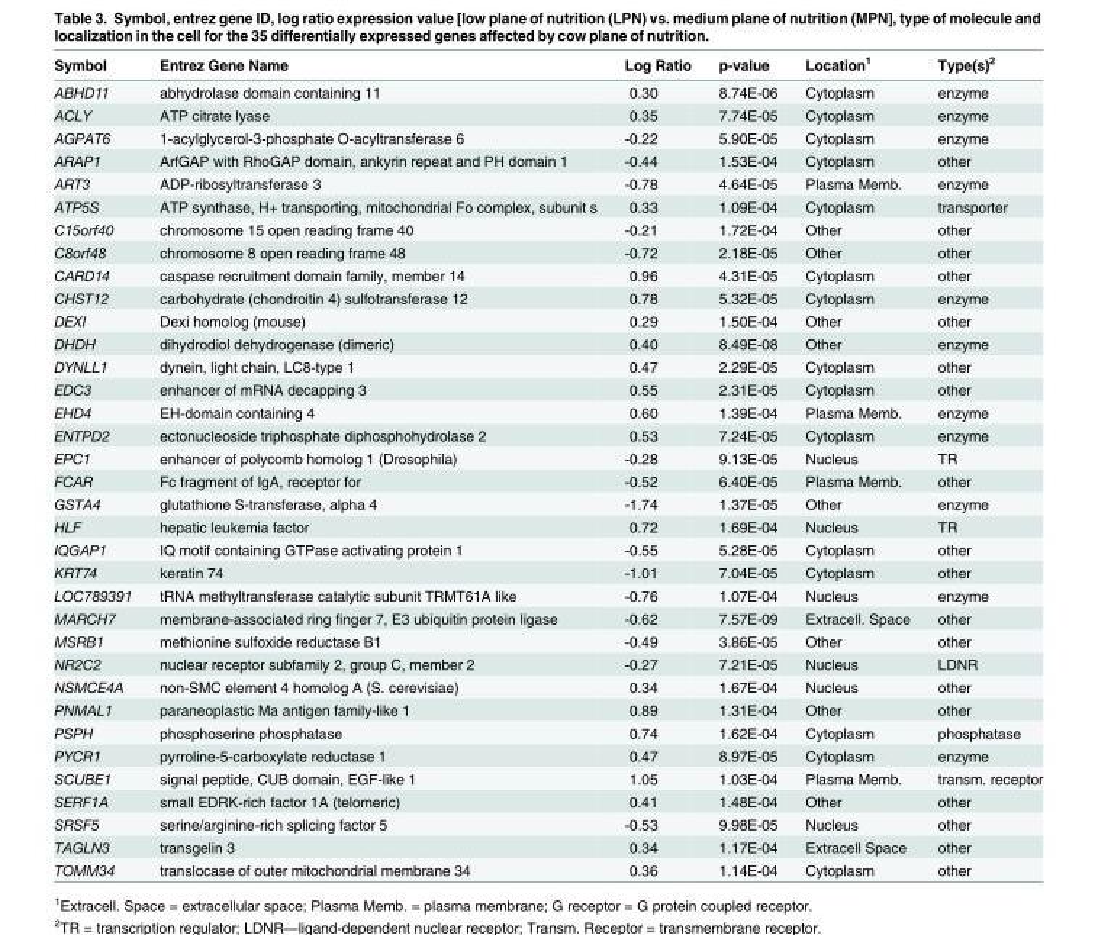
<table><thead><tr><td>Symbol</td><td>Entrez Gene Name</td><td>Log Ratio</td><td>p-value</td><td>Location<sup>1</sup></td><td>Type(s)<sup>2</sup></td></tr></thead><tbody><tr><td>ABHD11</td><td>abhydrolase domain containing 11</td><td>0.30</td><td>8.74E-06</td><td>Cytoplasm</td><td>enzyme</td></tr><tr><td>ACLY</td><td>ATP citrate lyase</td><td>0.35</td><td>7.74E-05</td><td>Cytoplasm</td><td>enzyme</td></tr><tr><td>AGPAT6</td><td>1-acylglycerol-3-phosphate O-acyltransferase 6</td><td>-0.22</td><td>5.90E-05</td><td>Cytoplasm</td><td>enzyme</td></tr><tr><td>ARAP1</td><td>ArfGAP with RhoGAP domain, ankyrin repeat and PH domain 1</td><td>-0.44</td><td>1.53E-04</td><td>Cytoplasm</td><td>other</td></tr><tr><td>ART3</td><td>ADP-ribosyltransferase 3</td><td>-0.78</td><td>4.64E-05</td><td>Plasma Memb.</td><td>enzyme</td></tr><tr><td>ATP5S</td><td>ATP synthase, H+ transporting, mitochondrial Fo complex, subunit s</td><td>0.33</td><td>1.09E-04</td><td>Cytoplasm</td><td>transporter</td></tr><tr><td>C15orf40</td><td>chromosome 15 open reading frame 40</td><td>-0.21</td><td>1.72E-04</td><td>Other</td><td>other</td></tr><tr><td>C8orf48</td><td>chromosome 8 open reading frame 48</td><td>-0.72</td><td>2.18E-05</td><td>Other</td><td>other</td></tr><tr><td>CARD14</td><td>caspase recruitment domain family, member 14</td><td>0.96</td><td>4.31E-05</td><td>Cytoplasm</td><td>other</td></tr><tr><td>CHST12</td><td>carbohydrate (chondroitin 4) sulfotransferase 12</td><td>0.78</td><td>5.32E-05</td><td>Cytoplasm</td><td>enzyme</td></tr><tr><td>DEXI</td><td>Dexi homolog (mouse)</td><td>0.29</td><td>1.50E-04</td><td>Other</td><td>other</td></tr><tr><td>DHDH</td><td>dihydrodiol dehydrogenase (dimeric)</td><td>0.40</td><td>8.49E-08</td><td>Other</td><td>enzyme</td></tr><tr><td>DYNLL1</td><td>dynein, light chain, LC8-type 1</td><td>0.47</td><td>2.29E-05</td><td>Cytoplasm</td><td>other</td></tr><tr><td>EDC3</td><td>enhancer of mRNA decapping 3</td><td>0.55</td><td>2.31E-05</td><td>Cytoplasm</td><td>other</td></tr><tr><td>EHD4</td><td>EH-domain containing 4</td><td>0.60</td><td>1.39E-04</td><td>Plasma Memb.</td><td>enzyme</td></tr><tr><td>ENTPD2</td><td>ectonucleoside triphosphate diphosphohydrolase 2</td><td>0.53</td><td>7.24E-05</td><td>Cytoplasm</td><td>enzyme</td></tr><tr><td>EPC1</td><td>enhancer of polycomb homolog 1 (Drosophila)</td><td>-0.28</td><td>9.13E-05</td><td>Nucleus</td><td>TR</td></tr><tr><td>FCAR</td><td>Fc fragment of IgA, receptor for</td><td>-0.52</td><td>6.40E-05</td><td>Plasma Memb.</td><td>other</td></tr><tr><td>GSTA4</td><td>glutathione S-transferase, alpha 4</td><td>-1.74</td><td>1.37E-05</td><td>Other</td><td>enzyme</td></tr><tr><td>HLF</td><td>hepatic leukemia factor</td><td>0.72</td><td>1.69E-04</td><td>Nucleus</td><td>TR</td></tr><tr><td>IQGAP1</td><td>IQ motif containing GTPase activating protein 1</td><td>-0.55</td><td>5.28E-05</td><td>Cytoplasm</td><td>other</td></tr><tr><td>KRT74</td><td>keratin 74</td><td>-1.01</td><td>7.04E-05</td><td>Cytoplasm</td><td>other</td></tr><tr><td>LOC789391</td><td>tRNA methyltransferase catalytic subunit TRMT61A like</td><td>-0.76</td><td>1.07E-04</td><td>Nucleus</td><td>enzyme</td></tr><tr><td>MARCH7</td><td>membrane-associated ring finger 7, E3 ubiquitin protein ligase</td><td>-0.62</td><td>7.57E-09</td><td>Extracell. Space</td><td>other</td></tr><tr><td>MSRB1</td><td>methionine sulfoxide reductase B1</td><td>-0.49</td><td>3.86E-05</td><td>Other</td><td>other</td></tr><tr><td>NR2C2</td><td>nuclear receptor subfamily 2, group C, member 2</td><td>-0.27</td><td>7.21E-05</td><td>Nucleus</td><td>LDNR</td></tr><tr><td>NSMCE4A</td><td>non-SMC element 4 homolog A (S. cerevisiae)</td><td>0.34</td><td>1.67E-04</td><td>Nucleus</td><td>other</td></tr><tr><td>PNMAL1</td><td>paraneoplastic Ma antigen family-like 1</td><td>0.89</td><td>1.31E-04</td><td>Other</td><td>other</td></tr><tr><td>PSPH</td><td>phosphoserine phosphatase</td><td>0.74</td><td>1.62E-04</td><td>Cytoplasm</td><td>phosphatase</td></tr><tr><td>PYCR1</td><td>pyrroline-5-carboxylate reductase 1</td><td>0.47</td><td>8.97E-05</td><td>Cytoplasm</td><td>enzyme</td></tr><tr><td>SCUBE1</td><td>signal peptide, CUB domain, EGF-like 1</td><td>1.05</td><td>1.03E-04</td><td>Plasma Memb.</td><td>transm. receptor</td></tr><tr><td>SERF1A</td><td>small EDRK-rich factor 1A (telomeric)</td><td>0.41</td><td>1.48E-04</td><td>Other</td><td>other</td></tr><tr><td>SRSF5</td><td>serine/arginine-rich splicing factor 5</td><td>-0.53</td><td>9.98E-05</td><td>Nucleus</td><td>other</td></tr><tr><td>TAGLN3</td><td>transgelin 3</td><td>0.34</td><td>1.17E-04</td><td>Extracell Space</td><td>other</td></tr><tr><td>TOMM34</td><td>translocase of outer mitochondrial membrane 34</td><td>0.36</td><td>1.14E-04</td><td>Cytoplasm</td><td>other</td></tr></tbody></table>